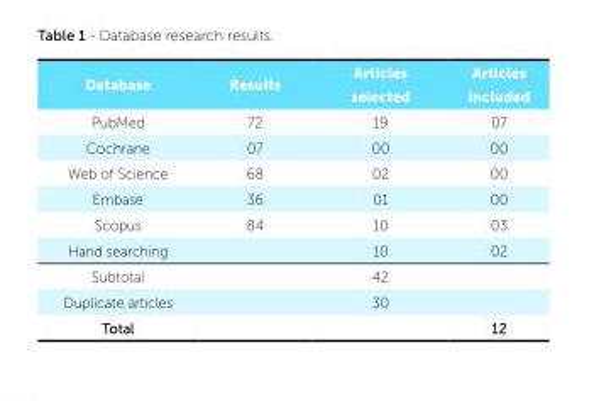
<table><thead><tr><td>Database</td><td>Results</td><td>Articles selected</td><td>Articles included</td></tr></thead><tbody><tr><td>PubMed</td><td>72</td><td>19</td><td>07</td></tr><tr><td>Cochrane</td><td>07</td><td>00</td><td>00</td></tr><tr><td>Web of Science</td><td>68</td><td>02</td><td>00</td></tr><tr><td>Embase</td><td>36</td><td>01</td><td>00</td></tr><tr><td>Scopus</td><td>84</td><td>10</td><td>03</td></tr><tr><td>Hand searching</td><td></td><td>10</td><td>02</td></tr><tr><td>Subtotal</td><td></td><td>42</td><td></td></tr><tr><td>Duplicate articles</td><td></td><td>30</td><td></td></tr><tr><td>Total</td><td></td><td></td><td>12</td></tr></tbody></table>